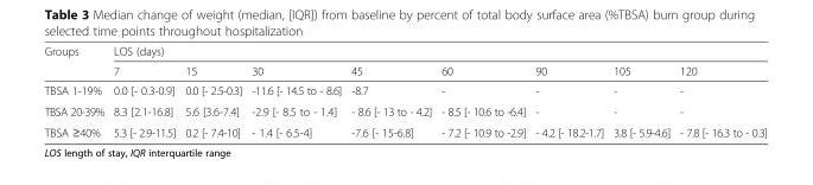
<table><thead><tr><td rowspan="2">Groups</td><td colspan="8">LOS (days)</td></tr><tr><td>7</td><td>15</td><td>30</td><td>45</td><td>60</td><td>90</td><td>105</td><td>120</td></tr></thead><tbody><tr><td>TBSA 1-19%</td><td>0.0 [- 0.3-0.9]</td><td>0.0 [- 2.5-0.3]</td><td>-11.6 [- 14.5 to - 8.6]</td><td>-8.7</td><td>-</td><td>-</td><td>-</td><td>-</td></tr><tr><td>TBSA 20-39%</td><td>8.3 [2.1-16.8]</td><td>5.6 [3.6-7.4]</td><td>-2.9 [- 8.5 to - 1.4]</td><td>- 8.6 [- 13 to - 4.2]</td><td>- 8.5 [- 10.6 to -6.4]</td><td>-</td><td>-</td><td>-</td></tr><tr><td>TBSA ≥40%</td><td>5.3 [- 2.9-11.5]</td><td>0.2 [- 7.4-10]</td><td>- 1.4 [- 6.5-4]</td><td>-7.6 [- 15-6.8]</td><td>- 7.2 [- 10.9 to -2.9]</td><td>- 4.2 [- 18.2-1.7]</td><td>3.8 [- 5.9-4.6]</td><td>- 7.8 [- 16.3 to - 0.3]</td></tr></tbody></table>